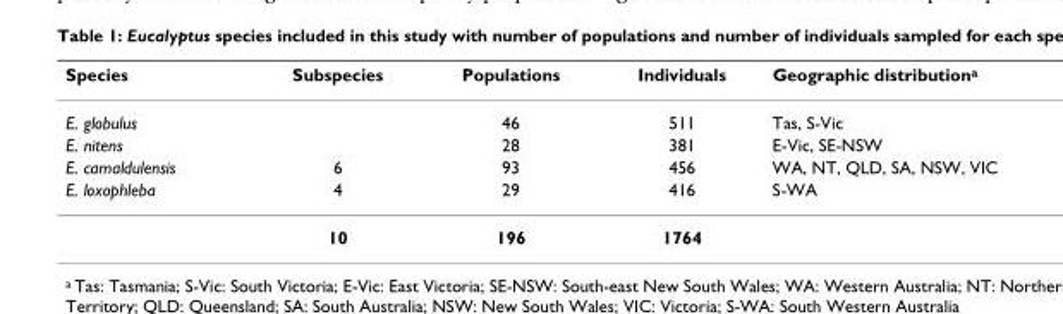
<table><thead><tr><td>Species</td><td>Subspecies</td><td>Populations</td><td>Individuals</td><td>Geographic distribution<sup>a</sup></td></tr></thead><tbody><tr><td>E. globulus</td><td></td><td>46</td><td>511</td><td>Tas, S-Vic</td></tr><tr><td>E. nitens</td><td></td><td>28</td><td>381</td><td>E-Vic, SE-NSW</td></tr><tr><td>E. camaldulensis</td><td>6</td><td>93</td><td>456</td><td>WA, NT, QLD, SA, NSW, VIC</td></tr><tr><td rowspan="2">E. loxophleba</td><td>4</td><td>29</td><td>416</td><td>S-WA</td></tr><tr><td>10</td><td>196</td><td>1764</td><td></td></tr></tbody></table>